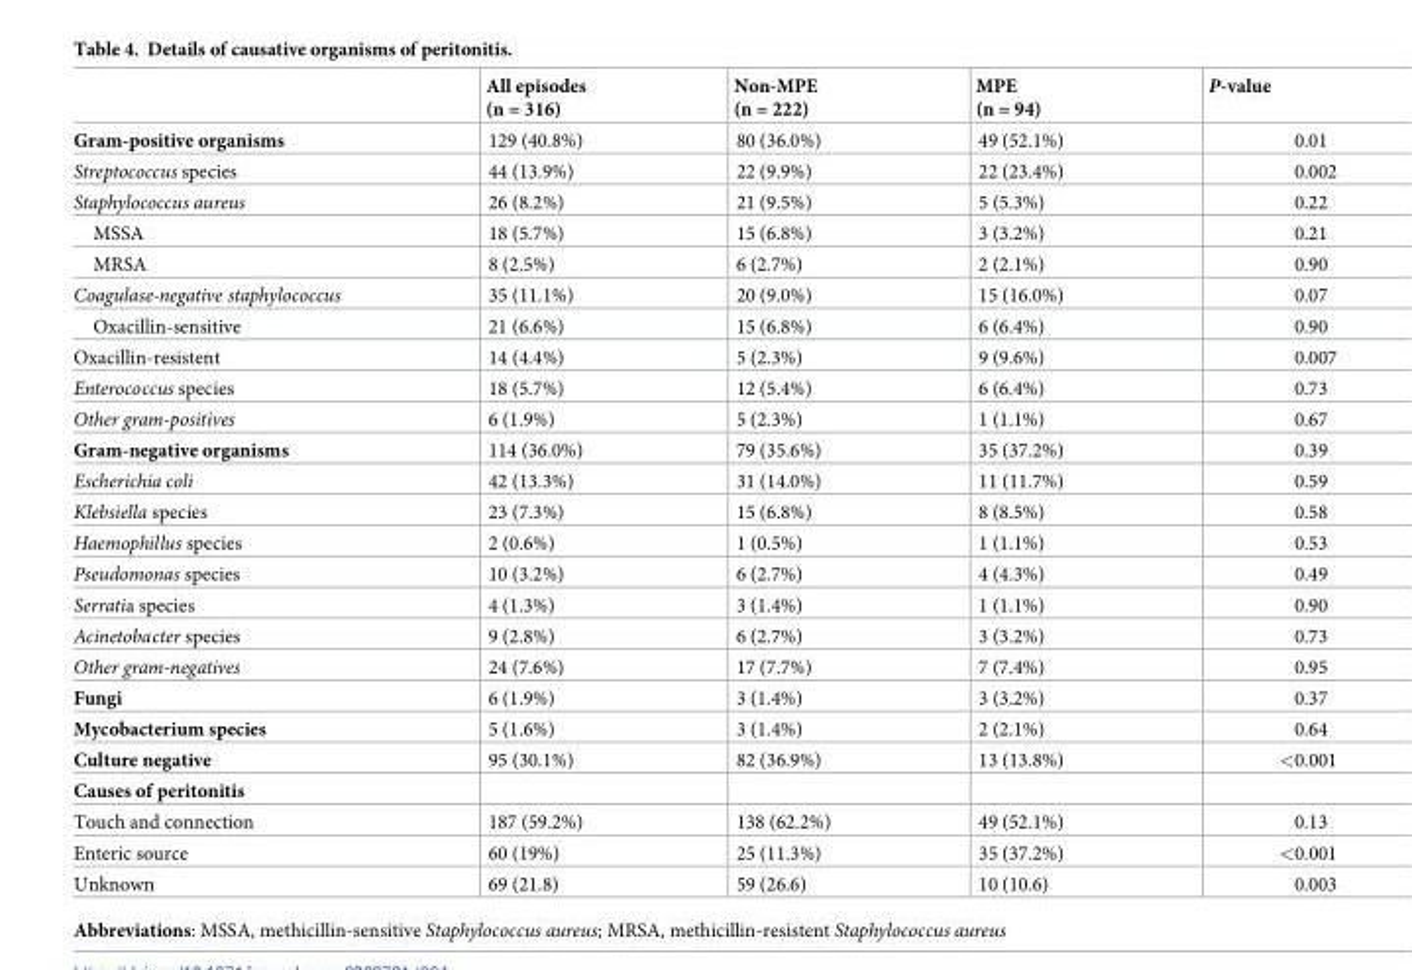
<table><thead><tr><td></td><td>All episodes (n = 316)</td><td>Non-MPE (n = 222)</td><td>MPE (n = 94)</td><td>P-value</td></tr></thead><tbody><tr><td>Gram-positive organisms</td><td>129 (40.8%)</td><td>80 (36.0%)</td><td>49 (52.1%)</td><td>0.01</td></tr><tr><td>Streptococcus species</td><td>44 (13.9%)</td><td>22 (9.9%)</td><td>22 (23.4%)</td><td>0.002</td></tr><tr><td>Staphylococcus aureus</td><td>26 (8.2%)</td><td>21 (9.5%)</td><td>5 (5.3%)</td><td>0.22</td></tr><tr><td>MSSA</td><td>18 (5.7%)</td><td>15 (6.8%)</td><td>3 (3.2%)</td><td>0.21</td></tr><tr><td>MRSA</td><td>8 (2.5%)</td><td>6 (2.7%)</td><td>2 (2.1%)</td><td>0.90</td></tr><tr><td>Coagulase-negative staphylococcus</td><td>35 (11.1%)</td><td>20 (9.0%)</td><td>15 (16.0%)</td><td>0.07</td></tr><tr><td>Oxacillin-sensitive</td><td>21 (6.6%)</td><td>15 (6.8%)</td><td>6 (6.4%)</td><td>0.90</td></tr><tr><td>Oxacillin-resistent</td><td>14 (4.4%)</td><td>5 (2.3%)</td><td>9 (9.6%)</td><td>0.007</td></tr><tr><td>Enterococcus species</td><td>18 (5.7%)</td><td>12 (5.4%)</td><td>6 (6.4%)</td><td>0.73</td></tr><tr><td>Other gram-positives</td><td>6 (1.9%)</td><td>5 (2.3%)</td><td>1 (1.1%)</td><td>0.67</td></tr><tr><td>Gram-negative organisms</td><td>114 (36.0%)</td><td>79 (35.6%)</td><td>35 (37.2%)</td><td>0.39</td></tr><tr><td>Escherichia coli</td><td>42 (13.3%)</td><td>31 (14.0%)</td><td>11 (11.7%)</td><td>0.59</td></tr><tr><td>Klebsiella species</td><td>23 (7.3%)</td><td>15 (6.8%)</td><td>8 (8.5%)</td><td>0.58</td></tr><tr><td>Haemophillus species</td><td>2 (0.6%)</td><td>1 (0.5%)</td><td>1 (1.1%)</td><td>0.53</td></tr><tr><td>Pseudomonas species</td><td>10 (3.2%)</td><td>6 (2.7%)</td><td>4 (4.3%)</td><td>0.49</td></tr><tr><td>Serratia species</td><td>4 (1.3%)</td><td>3 (1.4%)</td><td>1 (1.1%)</td><td>0.90</td></tr><tr><td>Acinetobacter species</td><td>9 (2.8%)</td><td>6 (2.7%)</td><td>3 (3.2%)</td><td>0.73</td></tr><tr><td>Other gram-negatives</td><td>24 (7.6%)</td><td>17 (7.7%)</td><td>7 (7.4%)</td><td>0.95</td></tr><tr><td>Fungi</td><td>6 (1.9%)</td><td>3 (1.4%)</td><td>3 (3.2%)</td><td>0.37</td></tr><tr><td>Mycobacterium species</td><td>5 (1.6%)</td><td>3 (1.4%)</td><td>2 (2.1%)</td><td>0.64</td></tr><tr><td>Culture negative</td><td>95 (30.1%)</td><td>82 (36.9%)</td><td>13 (13.8%)</td><td>&lt;0.001</td></tr><tr><td colspan="5">Causes of peritonitis</td></tr><tr><td>Touch and connection</td><td>187 (59.2%)</td><td>138 (62.2%)</td><td>49 (52.1%)</td><td>0.13</td></tr><tr><td>Enteric source</td><td>60 (19%)</td><td>25 (11.3%)</td><td>35 (37.2%)</td><td>&lt;0.001</td></tr><tr><td>Unknown</td><td>69 (21.8)</td><td>59 (26.6)</td><td>10 (10.6)</td><td>0.003</td></tr></tbody></table>